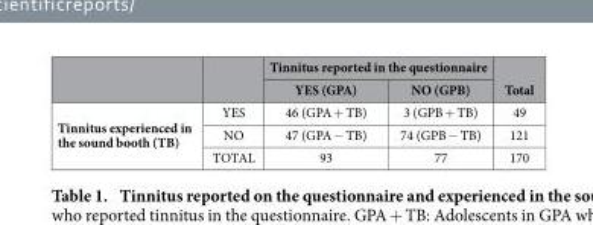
<table><thead><tr><td rowspan="2"></td><td rowspan="2"></td><td colspan="2">Tinnitus reported in the questionnaire</td><td rowspan="2">Total</td></tr><tr><td>YES (GPA)</td><td>NO (GPB)</td></tr></thead><tbody><tr><td rowspan="3">Tinnitus experienced in the sound booth (TB)</td><td>YES</td><td>46 (GPA + TB)</td><td>3 (GPB + TB)</td><td>49</td></tr><tr><td>NO</td><td>47 (GPA − TB)</td><td>74 (GPB − TB)</td><td>121</td></tr><tr><td>TOTAL</td><td>93</td><td>77</td><td>170</td></tr></tbody></table>